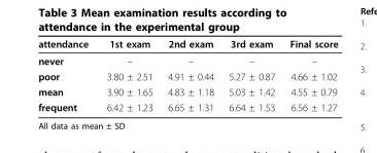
<table><thead><tr><td>attendance</td><td>1st exam</td><td>2nd exam</td><td>3rd exam</td><td>Final score</td></tr></thead><tbody><tr><td>never</td><td>–</td><td>–</td><td>–</td><td>–</td></tr><tr><td>poor</td><td>3.80 ± 2.51</td><td>4.91 ± 0.44</td><td>5.27 ± 0.87</td><td>4.66 ± 1.02</td></tr><tr><td>mean</td><td>3.90 ± 1.65</td><td>4.83 ± 1.18</td><td>5.03 ± 1.42</td><td>4.55 ± 0.79</td></tr><tr><td>frequent</td><td>6.42 ± 1.23</td><td>6.65 ± 1.31</td><td>6.64 ± 1.53</td><td>6.56 ± 1.27</td></tr></tbody></table>